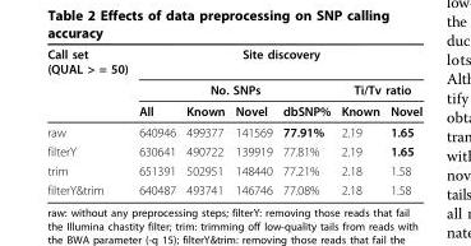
<table><thead><tr><td rowspan="3">Call set (QUAL &gt; = 50)</td><td colspan="6">Site discovery</td></tr><tr><td colspan="4">No. SNPs</td><td colspan="2">Ti/Tv ratio</td></tr><tr><td>All</td><td>Known</td><td>Novel</td><td>dbSNP%</td><td>Known</td><td>Novel</td></tr></thead><tbody><tr><td>raw</td><td>640946</td><td>499377</td><td>141569</td><td>77.91%</td><td>2.19</td><td>1.65</td></tr><tr><td>filterY</td><td>630641</td><td>490722</td><td>139919</td><td>77.81%</td><td>2.19</td><td>1.65</td></tr><tr><td>trim</td><td>651391</td><td>502951</td><td>148440</td><td>77.21%</td><td>2.18</td><td>1.58</td></tr><tr><td>filterY&amp;trim</td><td>640487</td><td>493741</td><td>146746</td><td>77.08%</td><td>2.18</td><td>1.58</td></tr></tbody></table>